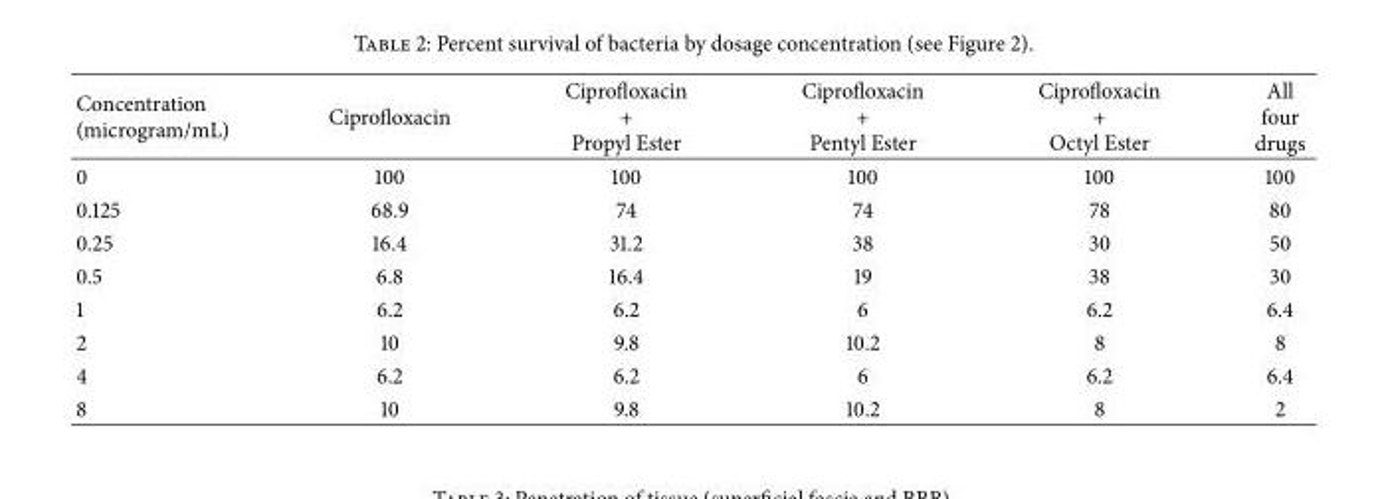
<table><thead><tr><td>Concentration (microgram/mL)</td><td>Ciprofloxacin</td><td>Ciprofloxacin + Propyl Ester</td><td>Ciprofloxacin + Pentyl Ester</td><td>Ciprofloxacin + Octyl Ester</td><td>All four drugs</td></tr></thead><tbody><tr><td>0</td><td>100</td><td>100</td><td>100</td><td>100</td><td>100</td></tr><tr><td>0.125</td><td>68.9</td><td>74</td><td>74</td><td>78</td><td>80</td></tr><tr><td>0.25</td><td>16.4</td><td>31.2</td><td>38</td><td>30</td><td>50</td></tr><tr><td>0.5</td><td>6.8</td><td>16.4</td><td>19</td><td>38</td><td>30</td></tr><tr><td>1</td><td>6.2</td><td>6.2</td><td>6</td><td>6.2</td><td>6.4</td></tr><tr><td>2</td><td>10</td><td>9.8</td><td>10.2</td><td>8</td><td>8</td></tr><tr><td>4</td><td>6.2</td><td>6.2</td><td>6</td><td>6.2</td><td>6.4</td></tr><tr><td>8</td><td>10</td><td>9.8</td><td>10.2</td><td>8</td><td>2</td></tr></tbody></table>